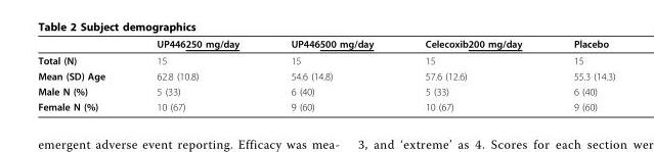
<table><thead><tr><td></td><td>UP446250 mg/day</td><td>UP446500 mg/day</td><td>Celecoxib200 mg/day</td><td>Placebo</td></tr></thead><tbody><tr><td>Total (N)</td><td>15</td><td>15</td><td>15</td><td>15</td></tr><tr><td>Mean (SD) Age</td><td>62.8 (10.8)</td><td>54.6 (14.8)</td><td>57.6 (12.6)</td><td>55.3 (14.3)</td></tr><tr><td>Male N (%)</td><td>5 (33)</td><td>6 (40)</td><td>5 (33)</td><td>6 (40)</td></tr><tr><td>Female N (%)</td><td>10 (67)</td><td>9 (60)</td><td>10 (67)</td><td>9 (60)</td></tr></tbody></table>